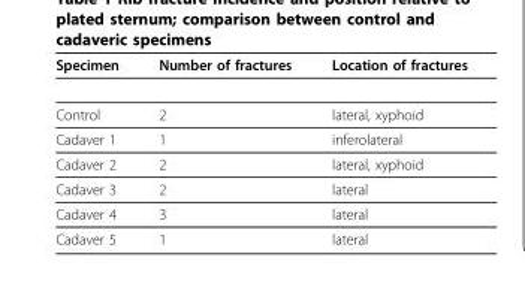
<table><thead><tr><td>Specimen</td><td>Number of fractures</td><td>Location of fractures</td></tr></thead><tbody><tr><td>Control</td><td>2</td><td>lateral, xyphoid</td></tr><tr><td>Cadaver 1</td><td>1</td><td>inferolateral</td></tr><tr><td>Cadaver 2</td><td>2</td><td>lateral, xyphoid</td></tr><tr><td>Cadaver 3</td><td>2</td><td>lateral</td></tr><tr><td>Cadaver 4</td><td>3</td><td>lateral</td></tr><tr><td>Cadaver 5</td><td>1</td><td>lateral</td></tr></tbody></table>